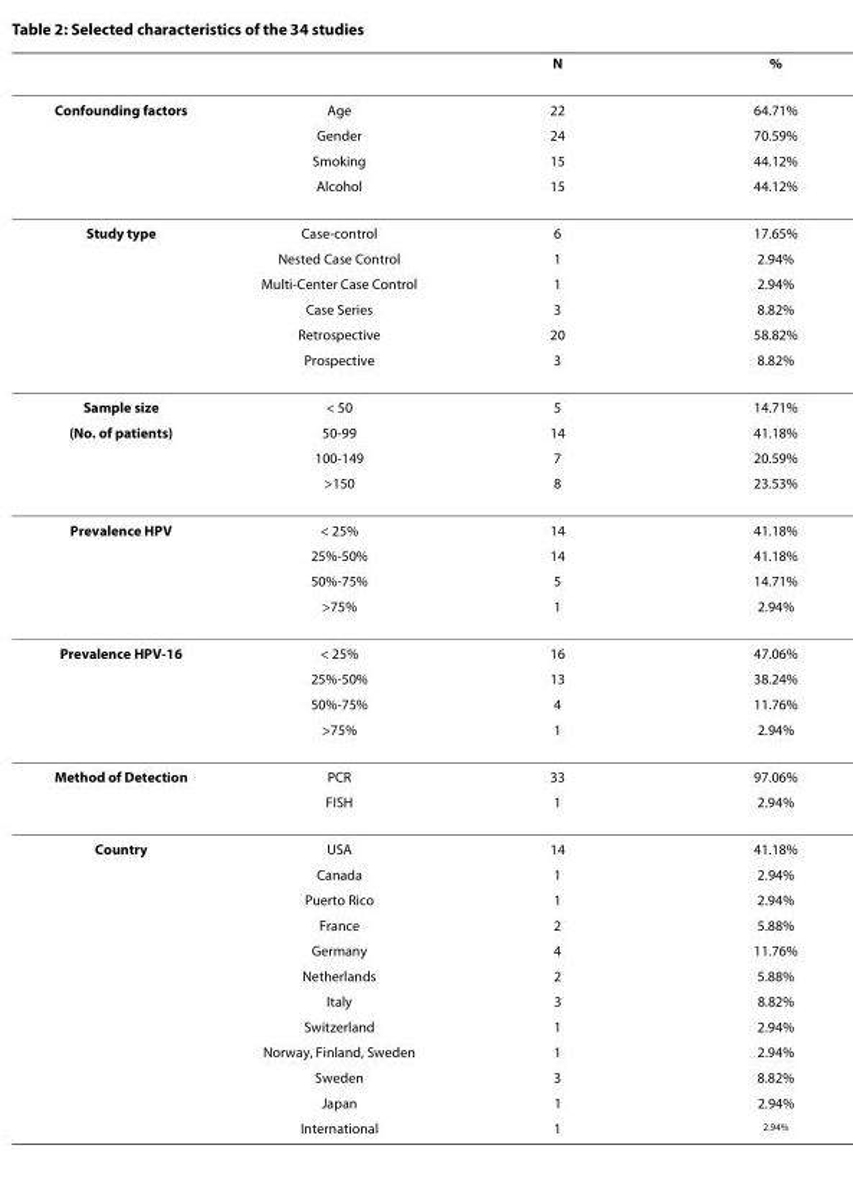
<table><thead><tr><td></td><td></td><td>N</td><td>%</td></tr></thead><tbody><tr><td rowspan="4">Confounding factors</td><td>Age</td><td>22</td><td>64.71%</td></tr><tr><td>Gender</td><td>24</td><td>70.59%</td></tr><tr><td>Smoking</td><td>15</td><td>44.12%</td></tr><tr><td>Alcohol</td><td>15</td><td>44.12%</td></tr><tr><td rowspan="6">Study type</td><td>Case-control</td><td>6</td><td>17.65%</td></tr><tr><td>Nested Case Control</td><td>1</td><td>2.94%</td></tr><tr><td>Multi-Center Case Control</td><td>1</td><td>2.94%</td></tr><tr><td>Case Series</td><td>3</td><td>8.82%</td></tr><tr><td>Retrospective</td><td>20</td><td>58.82%</td></tr><tr><td>Prospective</td><td>3</td><td>8.82%</td></tr><tr><td>Sample size</td><td>&lt; 50</td><td>5</td><td>14.71%</td></tr><tr><td rowspan="3">(No. of patients)</td><td>50-99</td><td>14</td><td>41.18%</td></tr><tr><td>100-149</td><td>7</td><td>20.59%</td></tr><tr><td>&gt;150</td><td>8</td><td>23.53%</td></tr><tr><td rowspan="4">Prevalence HPV</td><td>&lt; 25%</td><td>14</td><td>41.18%</td></tr><tr><td>25%-50%</td><td>14</td><td>41.18%</td></tr><tr><td>50%-75%</td><td>5</td><td>14.71%</td></tr><tr><td>&gt;75%</td><td>1</td><td>2.94%</td></tr><tr><td rowspan="4">Prevalence HPV-16</td><td>&lt; 25%</td><td>16</td><td>47.06%</td></tr><tr><td>25%-50%</td><td>13</td><td>38.24%</td></tr><tr><td>50%-75%</td><td>4</td><td>11.76%</td></tr><tr><td>&gt;75%</td><td>1</td><td>2.94%</td></tr><tr><td rowspan="2">Method of Detection</td><td>PCR</td><td>33</td><td>97.06%</td></tr><tr><td>FISH</td><td>1</td><td>2.94%</td></tr><tr><td rowspan="12">Country</td><td>USA</td><td>14</td><td>41.18%</td></tr><tr><td>Canada</td><td>1</td><td>2.94%</td></tr><tr><td>Puerto Rico</td><td>1</td><td>2.94%</td></tr><tr><td>France</td><td>2</td><td>5.88%</td></tr><tr><td>Germany</td><td>4</td><td>11.76%</td></tr><tr><td>Netherlands</td><td>2</td><td>5.88%</td></tr><tr><td>Italy</td><td>3</td><td>8.82%</td></tr><tr><td>Switzerland</td><td>1</td><td>2.94%</td></tr><tr><td>Norway, Finland, Sweden</td><td>1</td><td>2.94%</td></tr><tr><td>Sweden</td><td>3</td><td>8.82%</td></tr><tr><td>Japan</td><td>1</td><td>2.94%</td></tr><tr><td>International</td><td>1</td><td><sup>2.94%</sup></td></tr></tbody></table>